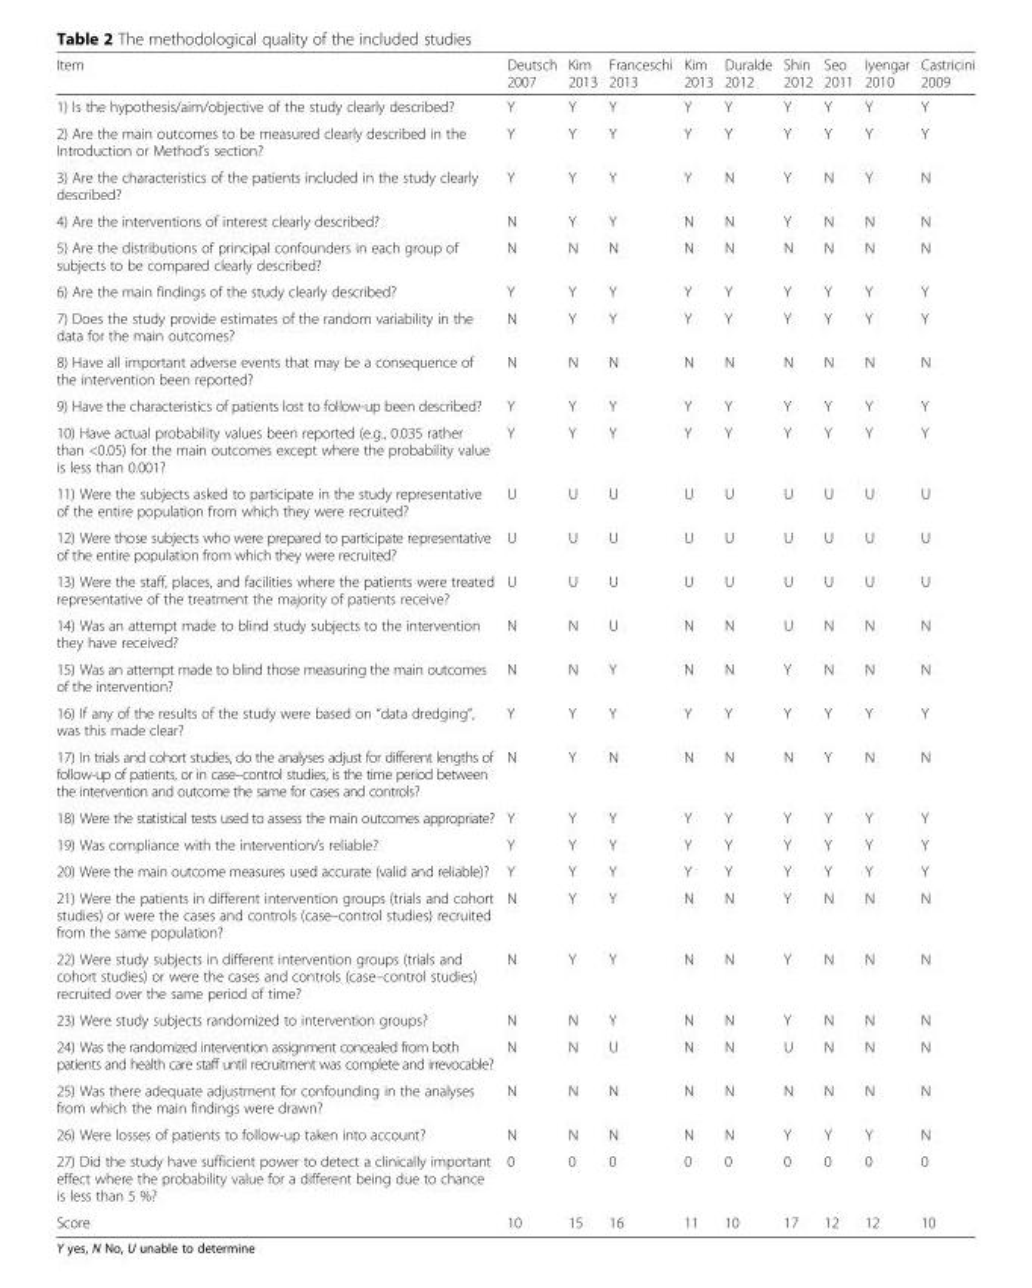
<table><thead><tr><td>Item</td><td>Deutsch 2007</td><td>Kim 2013</td><td>Franceschi 2013</td><td>Kim 2013</td><td>Duralde 2012</td><td>Shin 2012</td><td>Seo 2011</td><td>Iyengar 2010</td><td>Castricini 2009</td></tr></thead><tbody><tr><td>1) Is the hypothesis/aim/objective of the study clearly described?</td><td>Y</td><td>Y</td><td>Y</td><td>Y</td><td>Y</td><td>Y</td><td>Y</td><td>Y</td><td>Y</td></tr><tr><td>2) Are the main outcomes to be measured clearly described in the Introduction or Method’s section?</td><td>Y</td><td>Y</td><td>Y</td><td>Y</td><td>Y</td><td>Y</td><td>Y</td><td>Y</td><td>Y</td></tr><tr><td>3) Are the characteristics of the patients included in the study clearly described?</td><td>Y</td><td>Y</td><td>Y</td><td>Y</td><td>N</td><td>Y</td><td>N</td><td>Y</td><td>N</td></tr><tr><td>4) Are the interventions of interest clearly described?</td><td>N</td><td>Y</td><td>Y</td><td>N</td><td>N</td><td>Y</td><td>N</td><td>N</td><td>N</td></tr><tr><td>5) Are the distributions of principal confounders in each group of subjects to be compared clearly described?</td><td>N</td><td>N</td><td>N</td><td>N</td><td>N</td><td>N</td><td>N</td><td>N</td><td>N</td></tr><tr><td>6) Are the main findings of the study clearly described?</td><td>Y</td><td>Y</td><td>Y</td><td>Y</td><td>Y</td><td>Y</td><td>Y</td><td>Y</td><td>Y</td></tr><tr><td>7) Does the study provide estimates of the random variability in the data for the main outcomes?</td><td>N</td><td>Y</td><td>Y</td><td>Y</td><td>Y</td><td>Y</td><td>Y</td><td>Y</td><td>Y</td></tr><tr><td>8) Have all important adverse events that may be a consequence of the intervention been reported?</td><td>N</td><td>N</td><td>N</td><td>N</td><td>N</td><td>N</td><td>N</td><td>N</td><td>N</td></tr><tr><td>9) Have the characteristics of patients lost to follow-up been described?</td><td>Y</td><td>Y</td><td>Y</td><td>Y</td><td>Y</td><td>Y</td><td>Y</td><td>Y</td><td>Y</td></tr><tr><td>10) Have actual probability values been reported (e.g., 0.035 rather than &lt;0.05) for the main outcomes except where the probability value is less than 0.001?</td><td>Y</td><td>Y</td><td>Y</td><td>Y</td><td>Y</td><td>Y</td><td>Y</td><td>Y</td><td>Y</td></tr><tr><td>11) Were the subjects asked to participate in the study representative of the entire population from which they were recruited?</td><td>U</td><td>U</td><td>U</td><td>U</td><td>U</td><td>U</td><td>U</td><td>U</td><td>U</td></tr><tr><td>12) Were those subjects who were prepared to participate representative of the entire population from which they were recruited?</td><td>U</td><td>U</td><td>U</td><td>U</td><td>U</td><td>U</td><td>U</td><td>U</td><td>U</td></tr><tr><td>13) Were the staff, places, and facilities where the patients were treated representative of the treatment the majority of patients receive?</td><td>U</td><td>U</td><td>U</td><td>U</td><td>U</td><td>U</td><td>U</td><td>U</td><td>U</td></tr><tr><td>14) Was an attempt made to blind study subjects to the intervention they have received?</td><td>N</td><td>N</td><td>U</td><td>N</td><td>N</td><td>U</td><td>N</td><td>N</td><td>N</td></tr><tr><td>15) Was an attempt made to blind those measuring the main outcomes of the intervention?</td><td>N</td><td>N</td><td>Y</td><td>N</td><td>N</td><td>Y</td><td>N</td><td>N</td><td>N</td></tr><tr><td>16) If any of the results of the study were based on “data dredging”, was this made clear?</td><td>Y</td><td>Y</td><td>Y</td><td>Y</td><td>Y</td><td>Y</td><td>Y</td><td>Y</td><td>Y</td></tr><tr><td>17) In trials and cohort studies, do the analyses adjust for different lengths of follow-up of patients, or in case–control studies, is the time period between the intervention and outcome the same for cases and controls?</td><td>N</td><td>Y</td><td>N</td><td>N</td><td>N</td><td>N</td><td>Y</td><td>N</td><td>N</td></tr><tr><td>18) Were the statistical tests used to assess the main outcomes appropriate?</td><td>Y</td><td>Y</td><td>Y</td><td>Y</td><td>Y</td><td>Y</td><td>Y</td><td>Y</td><td>Y</td></tr><tr><td>19) Was compliance with the intervention/s reliable?</td><td>Y</td><td>Y</td><td>Y</td><td>Y</td><td>Y</td><td>Y</td><td>Y</td><td>Y</td><td>Y</td></tr><tr><td>20) Were the main outcome measures used accurate (valid and reliable)?</td><td>Y</td><td>Y</td><td>Y</td><td>Y</td><td>Y</td><td>Y</td><td>Y</td><td>Y</td><td>Y</td></tr><tr><td>21) Were the patients in different intervention groups (trials and cohort studies) or were the cases and controls (case–control studies) recruited from the same population?</td><td>N</td><td>Y</td><td>Y</td><td>N</td><td>N</td><td>Y</td><td>N</td><td>N</td><td>N</td></tr><tr><td>22) Were study subjects in different intervention groups (trials and cohort studies) or were the cases and controls (case–control studies) recruited over the same period of time?</td><td>N</td><td>Y</td><td>Y</td><td>N</td><td>N</td><td>Y</td><td>N</td><td>N</td><td>N</td></tr><tr><td>23) Were study subjects randomized to intervention groups?</td><td>N</td><td>N</td><td>Y</td><td>N</td><td>N</td><td>Y</td><td>N</td><td>N</td><td>N</td></tr><tr><td>24) Was the randomized intervention assignment concealed from both patients and health care staff until recruitment was complete and irrevocable?</td><td>N</td><td>N</td><td>U</td><td>N</td><td>N</td><td>U</td><td>N</td><td>N</td><td>N</td></tr><tr><td>25) Was there adequate adjustment for confounding in the analyses from which the main findings were drawn?</td><td>N</td><td>N</td><td>N</td><td>N</td><td>N</td><td>N</td><td>N</td><td>N</td><td>N</td></tr><tr><td>26) Were losses of patients to follow-up taken into account?</td><td>N</td><td>N</td><td>N</td><td>N</td><td>N</td><td>Y</td><td>Y</td><td>Y</td><td>N</td></tr><tr><td>27) Did the study have sufficient power to detect a clinically important effect where the probability value for a different being due to chance is less than 5 %?</td><td>0</td><td>0</td><td>0</td><td>0</td><td>0</td><td>0</td><td>0</td><td>0</td><td>0</td></tr><tr><td>Score</td><td>10</td><td>15</td><td>16</td><td>11</td><td>10</td><td>17</td><td>12</td><td>12</td><td>10</td></tr></tbody></table>